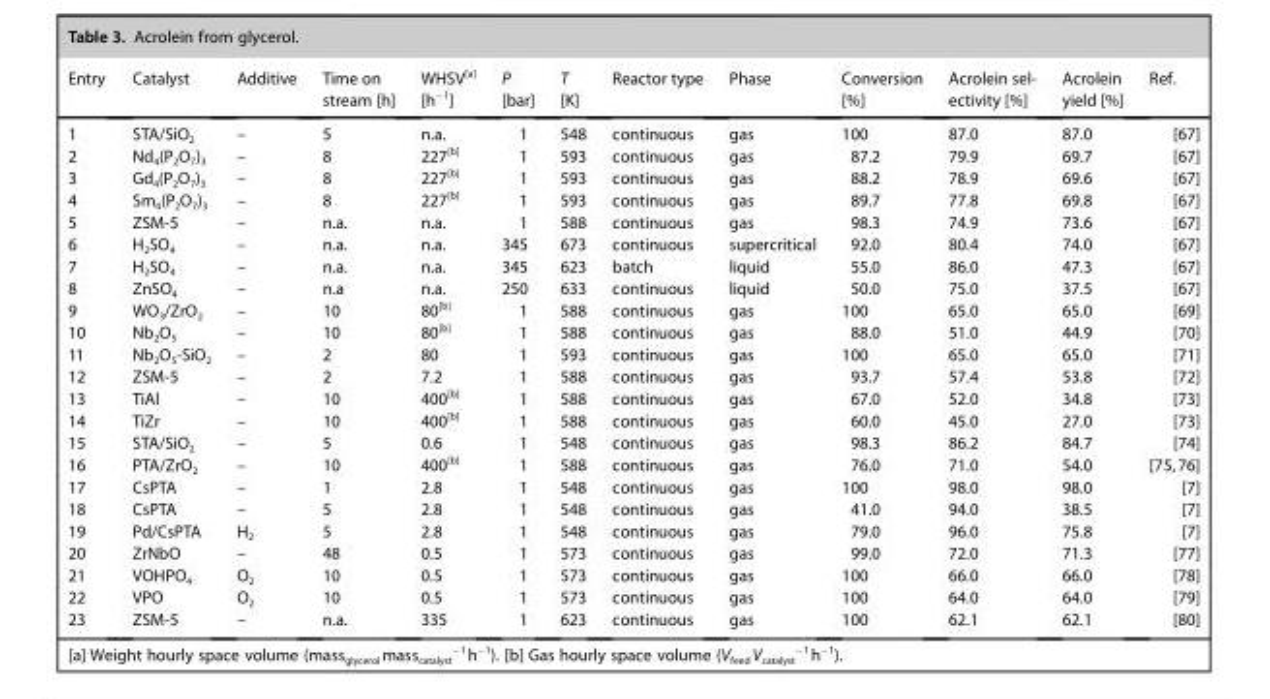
<table><thead><tr><td>Entry</td><td>Catalyst</td><td>Additive</td><td>Time on stream [h]</td><td>WHSV[a] [h<sup>−1</sup>]</td><td>P [bar]</td><td>T [K]</td><td>Reactor type</td><td>Phase</td><td>Conversion [%]</td><td>Acrolein sel- ectivity [%]</td><td>Acrolein yield [%]</td><td>Ref.</td></tr></thead><tbody><tr><td>1</td><td>STA/SiO<sub>2</sub></td><td>–</td><td>5</td><td>n.a.</td><td>1</td><td>548</td><td>continuous</td><td>gas</td><td>100</td><td>87.0</td><td>87.0</td><td>[67]</td></tr><tr><td>2</td><td>Nd<sub>4</sub>(P<sub>2</sub>O<sub>7</sub>)<sub>3</sub></td><td>–</td><td>8</td><td>227[b]</td><td>1</td><td>593</td><td>continuous</td><td>gas</td><td>87.2</td><td>79.9</td><td>69.7</td><td>[67]</td></tr><tr><td>3</td><td>Gd<sub>4</sub>(P<sub>2</sub>O<sub>7</sub>)<sub>3</sub></td><td>–</td><td>8</td><td>227[b]</td><td>1</td><td>593</td><td>continuous</td><td>gas</td><td>88.2</td><td>78.9</td><td>69.6</td><td>[67]</td></tr><tr><td>4</td><td>Sm<sub>4</sub>(P<sub>2</sub>O<sub>7</sub>)<sub>3</sub></td><td>–</td><td>8</td><td>227[b]</td><td>1</td><td>593</td><td>continuous</td><td>gas</td><td>89.7</td><td>77.8</td><td>69.8</td><td>[67]</td></tr><tr><td>5</td><td>ZSM-5</td><td>–</td><td>n.a.</td><td>n.a.</td><td>1</td><td>588</td><td>continuous</td><td>gas</td><td>98.3</td><td>74.9</td><td>73.6</td><td>[67]</td></tr><tr><td>6</td><td>H<sub>2</sub>SO<sub>4</sub></td><td>–</td><td>n.a.</td><td>n.a.</td><td>345</td><td>673</td><td>continuous</td><td>supercritical</td><td>92.0</td><td>80.4</td><td>74.0</td><td>[67]</td></tr><tr><td>7</td><td>H<sub>2</sub>SO<sub>4</sub></td><td>–</td><td>n.a.</td><td>n.a.</td><td>345</td><td>623</td><td>batch</td><td>liquid</td><td>55.0</td><td>86.0</td><td>47.3</td><td>[67]</td></tr><tr><td>8</td><td>ZnSO<sub>4</sub></td><td>–</td><td>n.a</td><td>n.a.</td><td>250</td><td>633</td><td>continuous</td><td>liquid</td><td>50.0</td><td>75.0</td><td>37.5</td><td>[67]</td></tr><tr><td>9</td><td>WO<sub>3</sub>/ZrO<sub>2</sub></td><td>–</td><td>10</td><td>80[b]</td><td>1</td><td>588</td><td>continuous</td><td>gas</td><td>100</td><td>65.0</td><td>65.0</td><td>[69]</td></tr><tr><td>10</td><td>Nb<sub>2</sub>O<sub>5</sub></td><td>–</td><td>10</td><td>80[b]</td><td>1</td><td>588</td><td>continuous</td><td>gas</td><td>88.0</td><td>51.0</td><td>44.9</td><td>[70]</td></tr><tr><td>11</td><td>Nb<sub>2</sub>O<sub>5</sub>-SiO<sub>2</sub></td><td>–</td><td>2</td><td>80</td><td>1</td><td>593</td><td>continuous</td><td>gas</td><td>100</td><td>65.0</td><td>65.0</td><td>[71]</td></tr><tr><td>12</td><td>ZSM-5</td><td>–</td><td>2</td><td>7.2</td><td>1</td><td>588</td><td>continuous</td><td>gas</td><td>93.7</td><td>57.4</td><td>53.8</td><td>[72]</td></tr><tr><td>13</td><td>TiAl</td><td>–</td><td>10</td><td>400[b]</td><td>1</td><td>588</td><td>continuous</td><td>gas</td><td>67.0</td><td>52.0</td><td>34.8</td><td>[73]</td></tr><tr><td>14</td><td>TiZr</td><td>–</td><td>10</td><td>400[b]</td><td>1</td><td>588</td><td>continuous</td><td>gas</td><td>60.0</td><td>45.0</td><td>27.0</td><td>[73]</td></tr><tr><td>15</td><td>STA/SiO<sub>2</sub></td><td>–</td><td>5</td><td>0.6</td><td>1</td><td>548</td><td>continuous</td><td>gas</td><td>98.3</td><td>86.2</td><td>84.7</td><td>[74]</td></tr><tr><td>16</td><td>PTA/ZrO<sub>2</sub></td><td>–</td><td>10</td><td>400[b]</td><td>1</td><td>588</td><td>continuous</td><td>gas</td><td>76.0</td><td>71.0</td><td>54.0</td><td>[75,76]</td></tr><tr><td>17</td><td>CsPTA</td><td>–</td><td>1</td><td>2.8</td><td>1</td><td>548</td><td>continuous</td><td>gas</td><td>100</td><td>98.0</td><td>98.0</td><td>[7]</td></tr><tr><td>18</td><td>CsPTA</td><td>–</td><td>5</td><td>2.8</td><td>1</td><td>548</td><td>continuous</td><td>gas</td><td>41.0</td><td>94.0</td><td>38.5</td><td>[7]</td></tr><tr><td>19</td><td>Pd/CsPTA</td><td>H<sub>2</sub></td><td>5</td><td>2.8</td><td>1</td><td>548</td><td>continuous</td><td>gas</td><td>79.0</td><td>96.0</td><td>75.8</td><td>[7]</td></tr><tr><td>20</td><td>ZrNbO</td><td>–</td><td>48</td><td>0.5</td><td>1</td><td>573</td><td>continuous</td><td>gas</td><td>99.0</td><td>72.0</td><td>71.3</td><td>[77]</td></tr><tr><td>21</td><td>VOHPO<sub>4</sub></td><td>O<sub>2</sub></td><td>10</td><td>0.5</td><td>1</td><td>573</td><td>continuous</td><td>gas</td><td>100</td><td>66.0</td><td>66.0</td><td>[78]</td></tr><tr><td>22</td><td>VPO</td><td>O<sub>2</sub></td><td>10</td><td>0.5</td><td>1</td><td>573</td><td>continuous</td><td>gas</td><td>100</td><td>64.0</td><td>64.0</td><td>[79]</td></tr><tr><td>23</td><td>ZSM-5</td><td>–</td><td>n.a.</td><td>335</td><td>1</td><td>623</td><td>continuous</td><td>gas</td><td>100</td><td>62.1</td><td>62.1</td><td>[80]</td></tr></tbody></table>